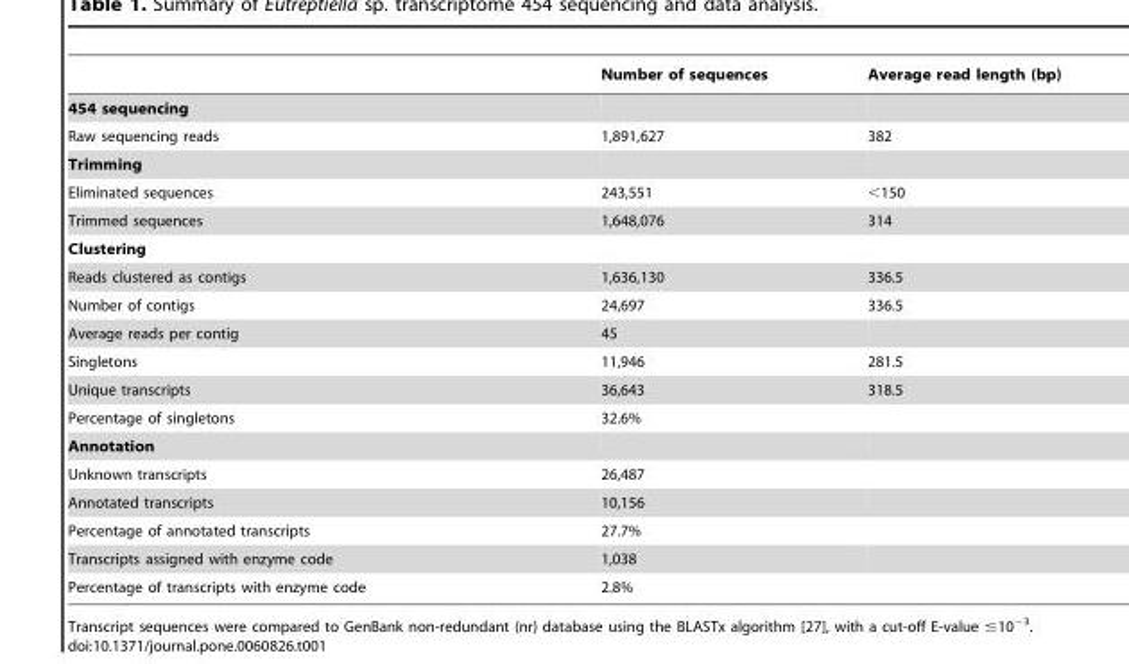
<table><thead><tr><td></td><td>Number of sequences</td><td>Average read length (bp)</td></tr></thead><tbody><tr><td colspan="3">454 sequencing</td></tr><tr><td>Raw sequencing reads</td><td>1,891,627</td><td>382</td></tr><tr><td colspan="3">Trimming</td></tr><tr><td>Eliminated sequences</td><td>243,551</td><td>&lt;150</td></tr><tr><td>Trimmed sequences</td><td>1,648,076</td><td>314</td></tr><tr><td colspan="3">Clustering</td></tr><tr><td>Reads clustered as contigs</td><td>1,636,130</td><td>336.5</td></tr><tr><td>Number of contigs</td><td>24,697</td><td>336.5</td></tr><tr><td>Average reads per contig</td><td>45</td><td></td></tr><tr><td>Singletons</td><td>11,946</td><td>281.5</td></tr><tr><td>Unique transcripts</td><td>36,643</td><td>318.5</td></tr><tr><td>Percentage of singletons</td><td>32.6%</td><td></td></tr><tr><td colspan="3">Annotation</td></tr><tr><td>Unknown transcripts</td><td>26,487</td><td></td></tr><tr><td>Annotated transcripts</td><td>10,156</td><td></td></tr><tr><td>Percentage of annotated transcripts</td><td>27.7%</td><td></td></tr><tr><td>Transcripts assigned with enzyme code</td><td>1,038</td><td></td></tr><tr><td>Percentage of transcripts with enzyme code</td><td>2.8%</td><td></td></tr></tbody></table>